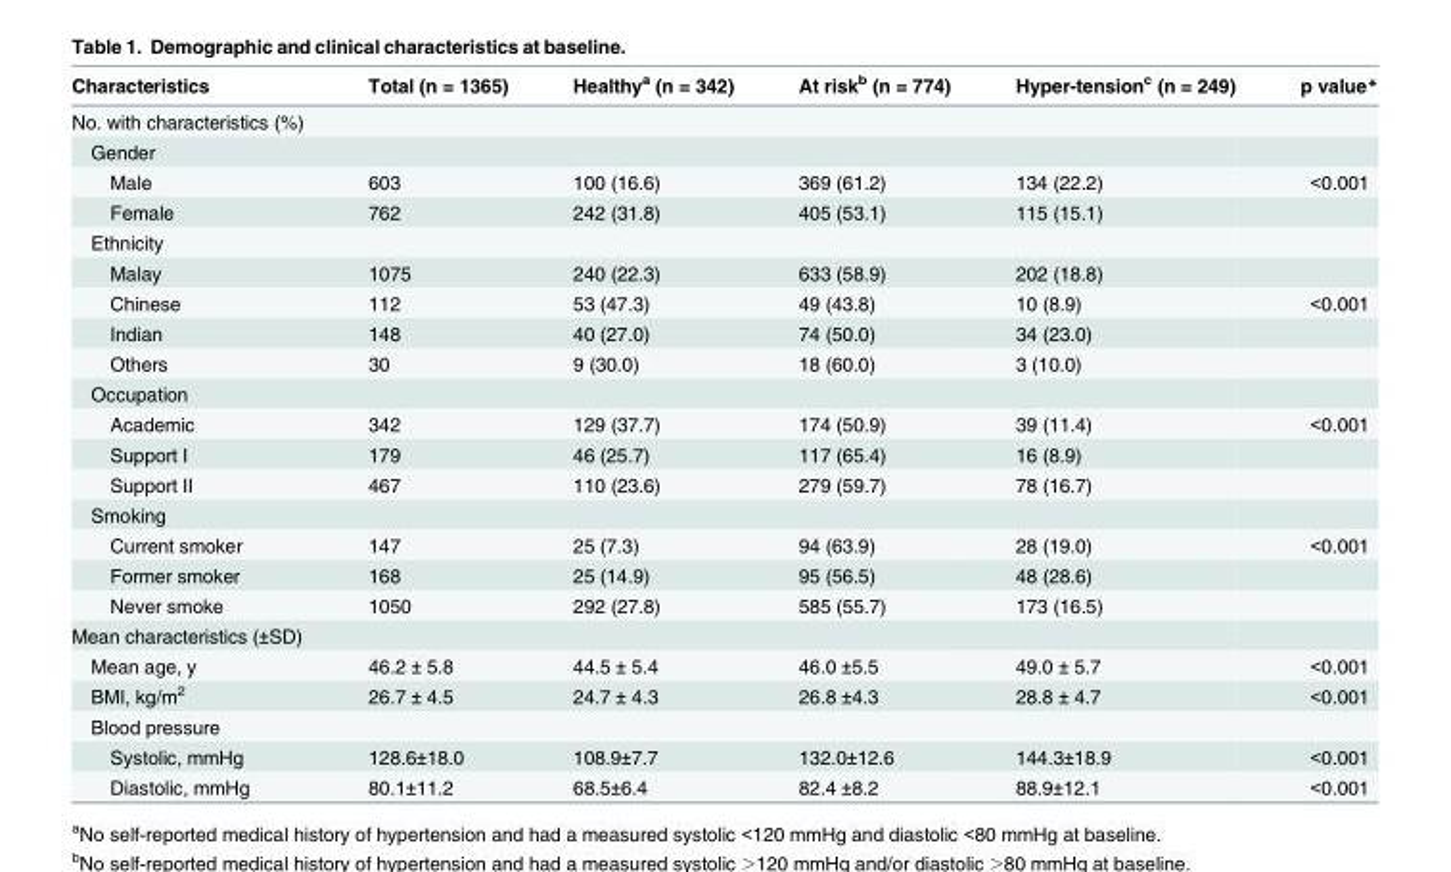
<table><thead><tr><td>Characteristics</td><td>Total (n = 1365)</td><td>Healthy<sup>a</sup> (n = 342)</td><td>At risk<sup>b</sup> (n = 774)</td><td>Hyper-tension<sup>c</sup> (n = 249)</td><td>p value*</td></tr></thead><tbody><tr><td colspan="6">No. with characteristics (%)</td></tr><tr><td colspan="6">Gender</td></tr><tr><td>Male</td><td>603</td><td>100 (16.6)</td><td>369 (61.2)</td><td>134 (22.2)</td><td>&lt;0.001</td></tr><tr><td>Female</td><td>762</td><td>242 (31.8)</td><td>405 (53.1)</td><td>115 (15.1)</td><td></td></tr><tr><td colspan="6">Ethnicity</td></tr><tr><td>Malay</td><td>1075</td><td>240 (22.3)</td><td>633 (58.9)</td><td>202 (18.8)</td><td></td></tr><tr><td>Chinese</td><td>112</td><td>53 (47.3)</td><td>49 (43.8)</td><td>10 (8.9)</td><td>&lt;0.001</td></tr><tr><td>Indian</td><td>148</td><td>40 (27.0)</td><td>74 (50.0)</td><td>34 (23.0)</td><td></td></tr><tr><td>Others</td><td>30</td><td>9 (30.0)</td><td>18 (60.0)</td><td>3 (10.0)</td><td></td></tr><tr><td colspan="6">Occupation</td></tr><tr><td>Academic</td><td>342</td><td>129 (37.7)</td><td>174 (50.9)</td><td>39 (11.4)</td><td>&lt;0.001</td></tr><tr><td>Support I</td><td>179</td><td>46 (25.7)</td><td>117 (65.4)</td><td>16 (8.9)</td><td></td></tr><tr><td>Support II</td><td>467</td><td>110 (23.6)</td><td>279 (59.7)</td><td>78 (16.7)</td><td></td></tr><tr><td colspan="6">Smoking</td></tr><tr><td>Current smoker</td><td>147</td><td>25 (7.3)</td><td>94 (63.9)</td><td>28 (19.0)</td><td>&lt;0.001</td></tr><tr><td>Former smoker</td><td>168</td><td>25 (14.9)</td><td>95 (56.5)</td><td>48 (28.6)</td><td></td></tr><tr><td>Never smoke</td><td>1050</td><td>292 (27.8)</td><td>585 (55.7)</td><td>173 (16.5)</td><td></td></tr><tr><td colspan="6">Mean characteristics (±SD)</td></tr><tr><td>Mean age, y</td><td>46.2 ± 5.8</td><td>44.5 ± 5.4</td><td>46.0 ±5.5</td><td>49.0 ± 5.7</td><td>&lt;0.001</td></tr><tr><td>BMI, kg/m<sup>2</sup></td><td>26.7 ± 4.5</td><td>24.7 ± 4.3</td><td>26.8 ±4.3</td><td>28.8 ± 4.7</td><td>&lt;0.001</td></tr><tr><td colspan="6">Blood pressure</td></tr><tr><td>Systolic, mmHg</td><td>128.6±18.0</td><td>108.9±7.7</td><td>132.0±12.6</td><td>144.3±18.9</td><td>&lt;0.001</td></tr><tr><td>Diastolic, mmHg</td><td>80.1±11.2</td><td>68.5±6.4</td><td>82.4 ±8.2</td><td>88.9±12.1</td><td>&lt;0.001</td></tr></tbody></table>